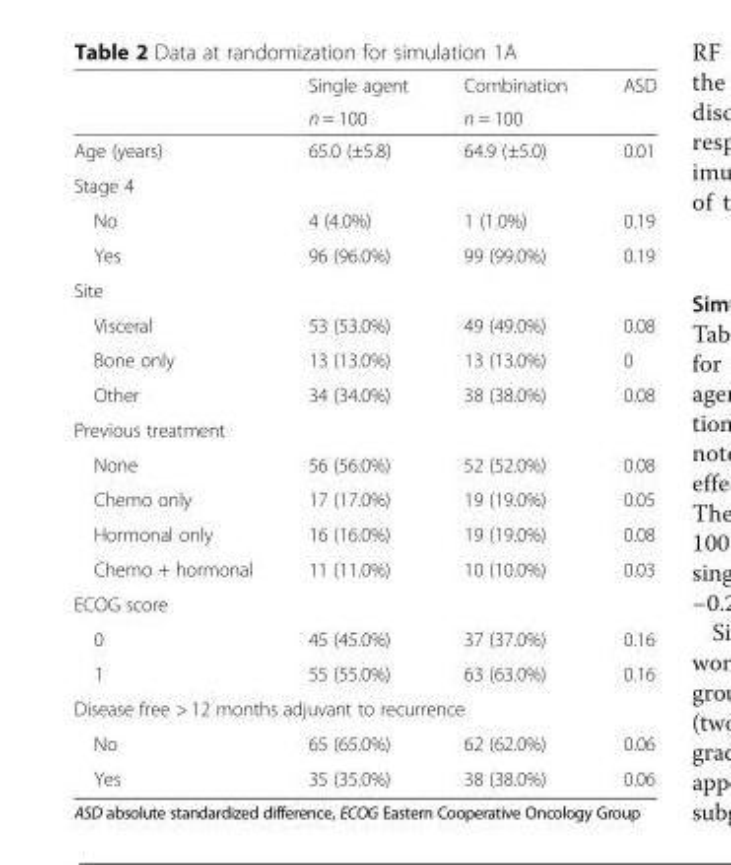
<table><thead><tr><td rowspan="2"></td><td rowspan="2">Single agent n = 100</td><td rowspan="2">Combination n = 100</td><td rowspan="2">ASD</td></tr><tr></tr></thead><tbody><tr><td>Age (years)</td><td>65.0 (±5.8)</td><td>64.9 (±5.0)</td><td>0.01</td></tr><tr><td colspan="4">Stage 4</td></tr><tr><td>No</td><td>4 (4.0%)</td><td>1 (1.0%)</td><td>0.19</td></tr><tr><td>Yes</td><td>96 (96.0%)</td><td>99 (99.0%)</td><td>0.19</td></tr><tr><td colspan="4">Site</td></tr><tr><td>Visceral</td><td>53 (53.0%)</td><td>49 (49.0%)</td><td>0.08</td></tr><tr><td>Bone only</td><td>13 (13.0%)</td><td>13 (13.0%)</td><td>0</td></tr><tr><td>Other</td><td>34 (34.0%)</td><td>38 (38.0%)</td><td>0.08</td></tr><tr><td colspan="4">Previous treatment</td></tr><tr><td>None</td><td>56 (56.0%)</td><td>52 (52.0%)</td><td>0.08</td></tr><tr><td>Chemo only</td><td>17 (17.0%)</td><td>19 (19.0%)</td><td>0.05</td></tr><tr><td>Hormonal only</td><td>16 (16.0%)</td><td>19 (19.0%)</td><td>0.08</td></tr><tr><td>Chemo + hormonal</td><td>11 (11.0%)</td><td>10 (10.0%)</td><td>0.03</td></tr><tr><td colspan="4">ECOG score</td></tr><tr><td>0</td><td>45 (45.0%)</td><td>37 (37.0%)</td><td>0.16</td></tr><tr><td>1</td><td>55 (55.0%)</td><td>63 (63.0%)</td><td>0.16</td></tr><tr><td colspan="4">Disease free &gt; 12 months adjuvant to recurrence</td></tr><tr><td>No</td><td>65 (65.0%)</td><td>62 (62.0%)</td><td>0.06</td></tr><tr><td>Yes</td><td>35 (35.0%)</td><td>38 (38.0%)</td><td>0.06</td></tr></tbody></table>